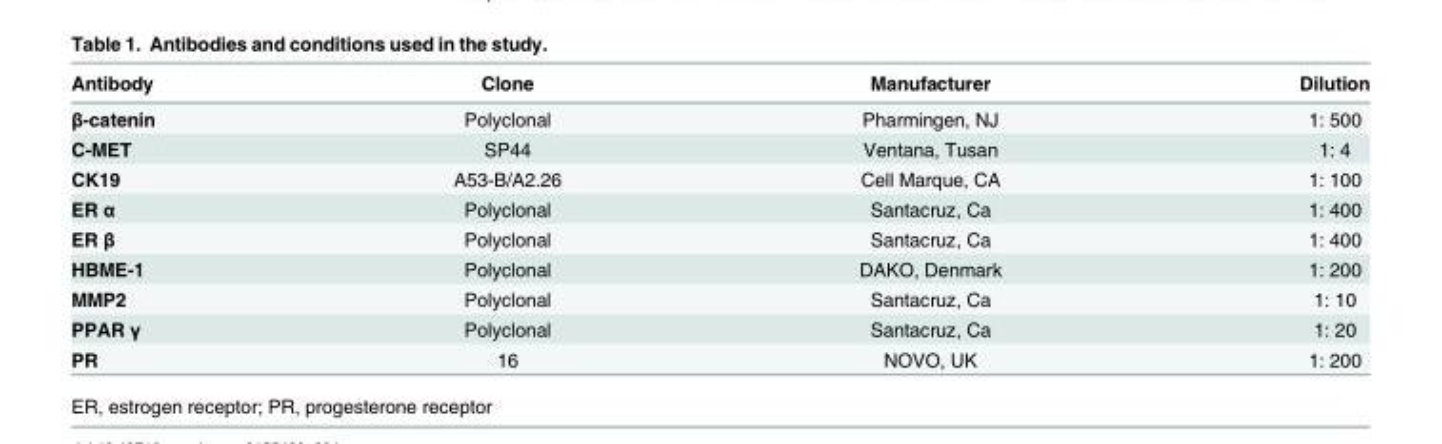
<table><thead><tr><td>Antibody</td><td>Clone</td><td>Manufacturer</td><td>Dilution</td></tr></thead><tbody><tr><td>β-catenin</td><td>Polyclonal</td><td>Pharmingen, NJ</td><td>1: 500</td></tr><tr><td>C-MET</td><td>SP44</td><td>Ventana, Tusan</td><td>1: 4</td></tr><tr><td>CK19</td><td>A53-B/A2.26</td><td>Cell Marque, CA</td><td>1: 100</td></tr><tr><td>ER α</td><td>Polyclonal</td><td>Santacruz, Ca</td><td>1: 400</td></tr><tr><td>ER β</td><td>Polyclonal</td><td>Santacruz, Ca</td><td>1: 400</td></tr><tr><td>HBME-1</td><td>Polyclonal</td><td>DAKO, Denmark</td><td>1: 200</td></tr><tr><td>MMP2</td><td>Polyclonal</td><td>Santacruz, Ca</td><td>1: 10</td></tr><tr><td>PPAR γ</td><td>Polyclonal</td><td>Santacruz, Ca</td><td>1: 20</td></tr><tr><td>PR</td><td>16</td><td>NOVO, UK</td><td>1: 200</td></tr></tbody></table>